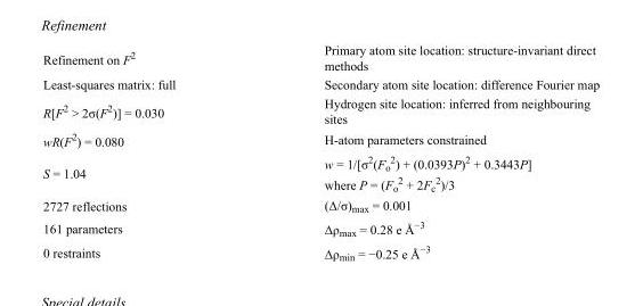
<table><tbody><tr><td>Refinement on F<sup>2</sup></td><td>Primary atom site location: structure-invariant direct methods</td></tr><tr><td>Least-squares matrix: full</td><td>Secondary atom site location: difference Fourier map</td></tr><tr><td>R[F<sup>2</sup> &gt; 2σ(F<sup>2</sup>)] = 0.030</td><td>Hydrogen site location: inferred from neighbouring sites</td></tr><tr><td>wR(F<sup>2</sup>) = 0.080</td><td>H-atom parameters constrained</td></tr><tr><td>S = 1.04</td><td>w = 1/[σ<sup>2</sup>(F<sub>o</sub> <sup>2</sup>) + (0.0393P)<sup>2</sup> + 0.3443P] where P = (F<sub>o</sub> <sup>2</sup> + 2F<sub>c</sub> <sup>2</sup>)/3</td></tr><tr><td>2727 reflections</td><td>(Δ/σ)<sub>max</sub> = 0.001</td></tr><tr><td>161 parameters</td><td>Δρ<sub>max</sub> = 0.28 e Å<sup>−3</sup></td></tr><tr><td>0 restraints</td><td>Δρ<sub>min</sub> = −0.25 e Å<sup>−3</sup></td></tr></tbody></table>